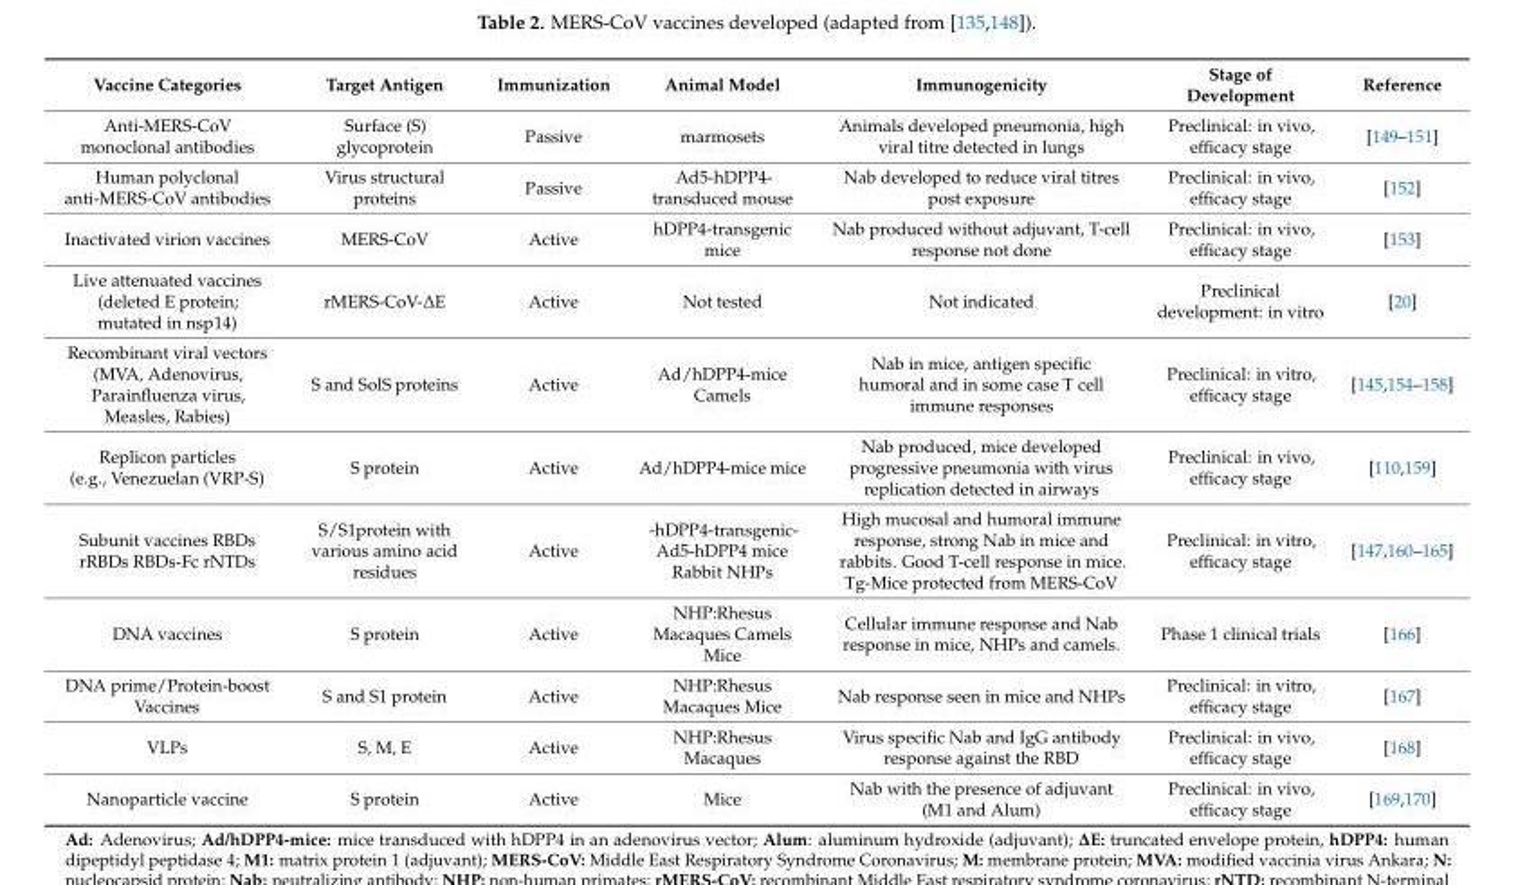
<table><thead><tr><td>Vaccine Categories</td><td>Target Antigen</td><td>Immunization</td><td>Animal Model</td><td>Immunogenicity</td><td>Stage of Development</td><td>Reference</td></tr></thead><tbody><tr><td>Anti-MERS-CoV monoclonal antibodies</td><td>Surface (S) glycoprotein</td><td>Passive</td><td>marmosets</td><td>Animals developed pneumonia, high viral titre detected in lungs</td><td>Preclinical: in vivo, efficacy stage</td><td>[149–151]</td></tr><tr><td>Human polyclonal anti-MERS-CoV antibodies</td><td>Virus structural proteins</td><td>Passive</td><td>Ad5-hDPP4- transduced mouse</td><td>Nab developed to reduce viral titres post exposure</td><td>Preclinical: in vivo, efficacy stage</td><td>[152]</td></tr><tr><td>Inactivated virion vaccines</td><td>MERS-CoV</td><td>Active</td><td>hDPP4-transgenic mice</td><td>Nab produced without adjuvant, T-cell response not done</td><td>Preclinical: in vivo, efficacy stage</td><td>[153]</td></tr><tr><td>Live attenuated vaccines (deleted E protein; mutated in nsp14)</td><td>rMERS-CoV-∆E</td><td>Active</td><td>Not tested</td><td>Not indicated</td><td>Preclinical development: in vitro</td><td>[20]</td></tr><tr><td>Recombinant viral vectors (MVA, Adenovirus, Parainfluenza virus, Measles, Rabies)</td><td>S and SolS proteins</td><td>Active</td><td>Ad/hDPP4-mice Camels</td><td>Nab in mice, antigen specific humoral and in some case T cell immune responses</td><td>Preclinical: in vitro, efficacy stage</td><td>[145,154–158]</td></tr><tr><td>Replicon particles (e.g., Venezuelan (VRP-S)</td><td>S protein</td><td>Active</td><td>Ad/hDPP4-mice mice</td><td>Nab produced, mice developed progressive pneumonia with virus replication detected in airways</td><td>Preclinical: in vivo, efficacy stage</td><td>[110,159]</td></tr><tr><td>Subunit vaccines RBDs rRBDs RBDs-Fc rNTDs</td><td>S/S1protein with various amino acid residues</td><td>Active</td><td>-hDPP4-transgenic- Ad5-hDPP4 mice Rabbit NHPs</td><td>High mucosal and humoral immune response, strong Nab in mice and rabbits. Good T-cell response in mice. Tg-Mice protected from MERS-CoV</td><td>Preclinical: in vitro, efficacy stage</td><td>[147,160–165]</td></tr><tr><td>DNA vaccines</td><td>S protein</td><td>Active</td><td>NHP:Rhesus Macaques Camels Mice</td><td>Cellular immune response and Nab response in mice, NHPs and camels.</td><td>Phase 1 clinical trials</td><td>[166]</td></tr><tr><td>DNA prime/Protein-boost Vaccines</td><td>S and S1 protein</td><td>Active</td><td>NHP:Rhesus Macaques Mice</td><td>Nab response seen in mice and NHPs</td><td>Preclinical: in vitro, efficacy stage</td><td>[167]</td></tr><tr><td>VLPs</td><td>S, M, E</td><td>Active</td><td>NHP:Rhesus Macaques</td><td>Virus specific Nab and IgG antibody response against the RBD</td><td>Preclinical: in vivo, efficacy stage</td><td>[168]</td></tr><tr><td>Nanoparticle vaccine</td><td>S protein</td><td>Active</td><td>Mice</td><td>Nab with the presence of adjuvant (M1 and Alum)</td><td>Preclinical: in vivo, efficacy stage</td><td>[169,170]</td></tr></tbody></table>